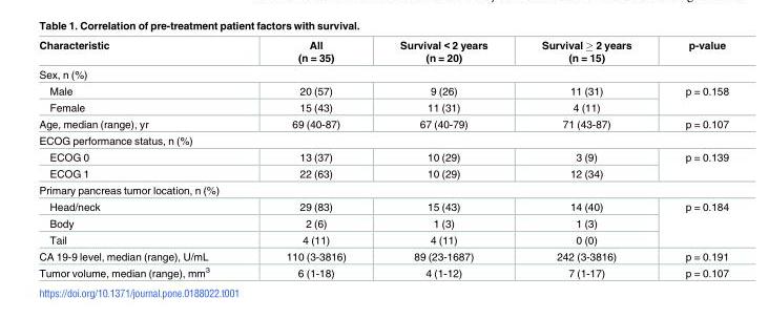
<table><thead><tr><td>Characteristic</td><td>All (n = 35)</td><td>Survival &lt; 2 years (n = 20)</td><td>Survival ≥ 2 years (n = 15)</td><td>p-value</td></tr></thead><tbody><tr><td colspan="5">Sex, n (%)</td></tr><tr><td>Male</td><td>20 (57)</td><td>9 (26)</td><td>11 (31)</td><td rowspan="2">p = 0.158</td></tr><tr><td>Female</td><td>15 (43)</td><td>11 (31)</td><td>4 (11)</td></tr><tr><td>Age, median (range), yr</td><td>69 (40-87)</td><td>67 (40-79)</td><td>71 (43-87)</td><td>p = 0.107</td></tr><tr><td colspan="5">ECOG performance status, n (%)</td></tr><tr><td>ECOG 0</td><td>13 (37)</td><td>10 (29)</td><td>3 (9)</td><td rowspan="2">p = 0.139</td></tr><tr><td>ECOG 1</td><td>22 (63)</td><td>10 (29)</td><td>12 (34)</td></tr><tr><td colspan="5">Primary pancreas tumor location, n (%)</td></tr><tr><td>Head/neck</td><td>29 (83)</td><td>15 (43)</td><td>14 (40)</td><td rowspan="3">p = 0.184</td></tr><tr><td>Body</td><td>2 (6)</td><td>1 (3)</td><td>1 (3)</td></tr><tr><td>Tail</td><td>4 (11)</td><td>4 (11)</td><td>0 (0)</td></tr><tr><td>CA 19-9 level, median (range), U/mL</td><td>110 (3-3816)</td><td>89 (23-1687)</td><td>242 (3-3816)</td><td>p = 0.191</td></tr><tr><td>Tumor volume, median (range), mm<sup>3</sup></td><td>6 (1-18)</td><td>4 (1-12)</td><td>7 (1-17)</td><td>p = 0.107</td></tr></tbody></table>